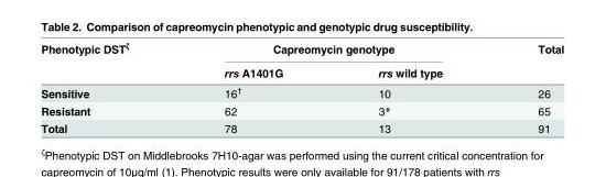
<table><thead><tr><td rowspan="2">Phenotypic DST<sup>ζ</sup></td><td colspan="2">Capreomycin genotype</td><td rowspan="2">Total</td></tr><tr><td>rrs A1401G</td><td>rrs wild type</td></tr></thead><tbody><tr><td>Sensitive</td><td>16<sup>†</sup></td><td>10</td><td>26</td></tr><tr><td>Resistant</td><td>62</td><td>3*</td><td>65</td></tr><tr><td>Total</td><td>78</td><td>13</td><td>91</td></tr></tbody></table>